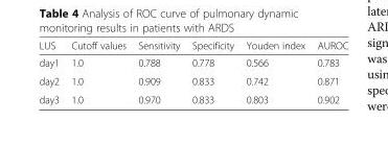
<table><thead><tr><td>LUS</td><td>Cutoff values</td><td>Sensitivity</td><td>Specificity</td><td>Youden index</td><td>AUROC</td></tr></thead><tbody><tr><td>day1</td><td>1.0</td><td>0.788</td><td>0.778</td><td>0.566</td><td>0.783</td></tr><tr><td>day2</td><td>1.0</td><td>0.909</td><td>0.833</td><td>0.742</td><td>0.871</td></tr><tr><td>day3</td><td>1.0</td><td>0.970</td><td>0.833</td><td>0.803</td><td>0.902</td></tr></tbody></table>